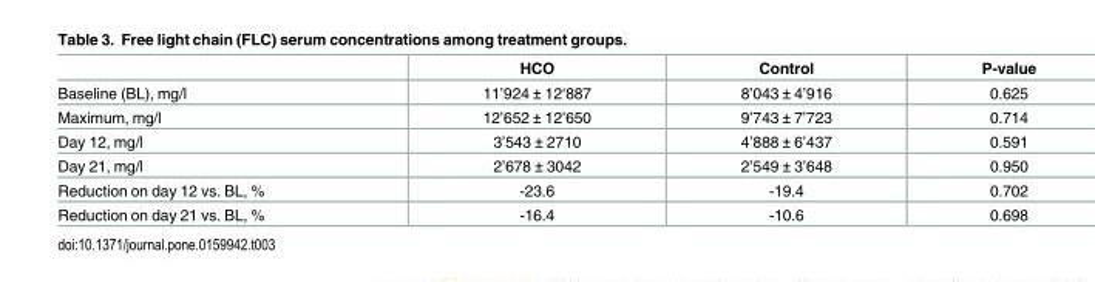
<table><thead><tr><td></td><td>HCO</td><td>Control</td><td>P-value</td></tr></thead><tbody><tr><td>Baseline (BL), mg/l</td><td>11’924 ± 12‘887</td><td>8’043 ± 4’916</td><td>0.625</td></tr><tr><td>Maximum, mg/l</td><td>12’652 ± 12’650</td><td>9’743 ± 7’723</td><td>0.714</td></tr><tr><td>Day 12, mg/l</td><td>3’543 ± 2710</td><td>4’888 ± 6’437</td><td>0.591</td></tr><tr><td>Day 21, mg/l</td><td>2’678 ± 3042</td><td>2’549 ± 3’648</td><td>0.950</td></tr><tr><td>Reduction on day 12 vs. BL, %</td><td>-23.6</td><td>-19.4</td><td>0.702</td></tr><tr><td>Reduction on day 21 vs. BL, %</td><td>-16.4</td><td>-10.6</td><td>0.698</td></tr></tbody></table>